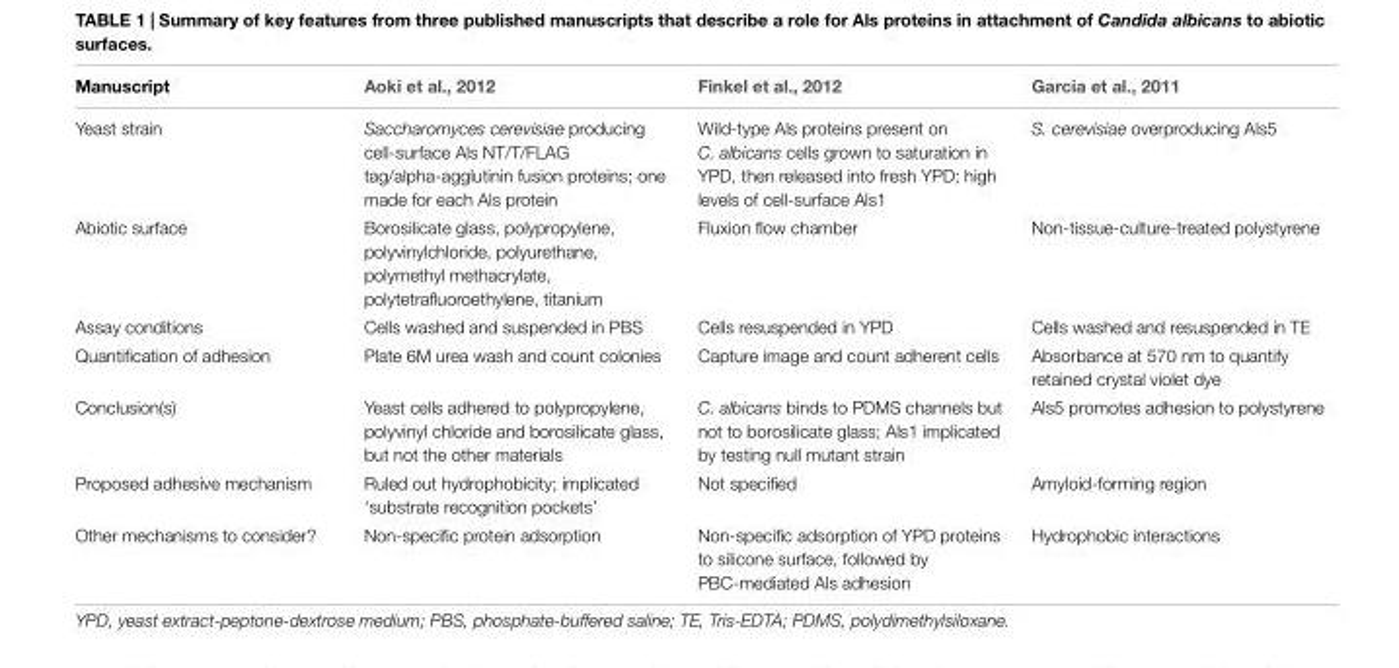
<table><thead><tr><td>Manuscript</td><td>Aoki et al., 2012</td><td>Finkel et al., 2012</td><td>Garcia et al., 2011</td></tr></thead><tbody><tr><td>Yeast strain</td><td>Saccharomyces cerevisiae producing cell-surface Als NT/T/FLAG tag/alpha-agglutinin fusion proteins; one made for each Als protein</td><td>Wild-type Als proteins present on C. albicans cells grown to saturation in YPD, then released into fresh YPD; high levels of cell-surface Als1</td><td>S. cerevisiae overproducing Als5</td></tr><tr><td>Abiotic surface</td><td>Borosilicate glass, polypropylene, polyvinylchloride, polyurethane, polymethyl methacrylate, polytetrafluoroethylene, titanium</td><td>Fluxion flow chamber</td><td>Non-tissue-culture-treated polystyrene</td></tr><tr><td>Assay conditions</td><td>Cells washed and suspended in PBS</td><td>Cells resuspended in YPD</td><td>Cells washed and resuspended in TE</td></tr><tr><td>Quantification of adhesion</td><td>Plate 6M urea wash and count colonies</td><td>Capture image and count adherent cells</td><td>Absorbance at 570 nm to quantify retained crystal violet dye</td></tr><tr><td>Conclusion(s)</td><td>Yeast cells adhered to polypropylene, polyvinyl chloride and borosilicate glass, but not the other materials</td><td>C. albicans binds to PDMS channels but not to borosilicate glass; Als1 implicated by testing null mutant strain</td><td>Als5 promotes adhesion to polystyrene</td></tr><tr><td>Proposed adhesive mechanism</td><td>Ruled out hydrophobicity; implicated ‘substrate recognition pockets’</td><td>Not specified</td><td>Amyloid-forming region</td></tr><tr><td>Other mechanisms to consider?</td><td>Non-specific protein adsorption</td><td>Non-specific adsorption of YPD proteins to silicone surface, followed by PBC-mediated Als adhesion</td><td>Hydrophobic interactions</td></tr></tbody></table>